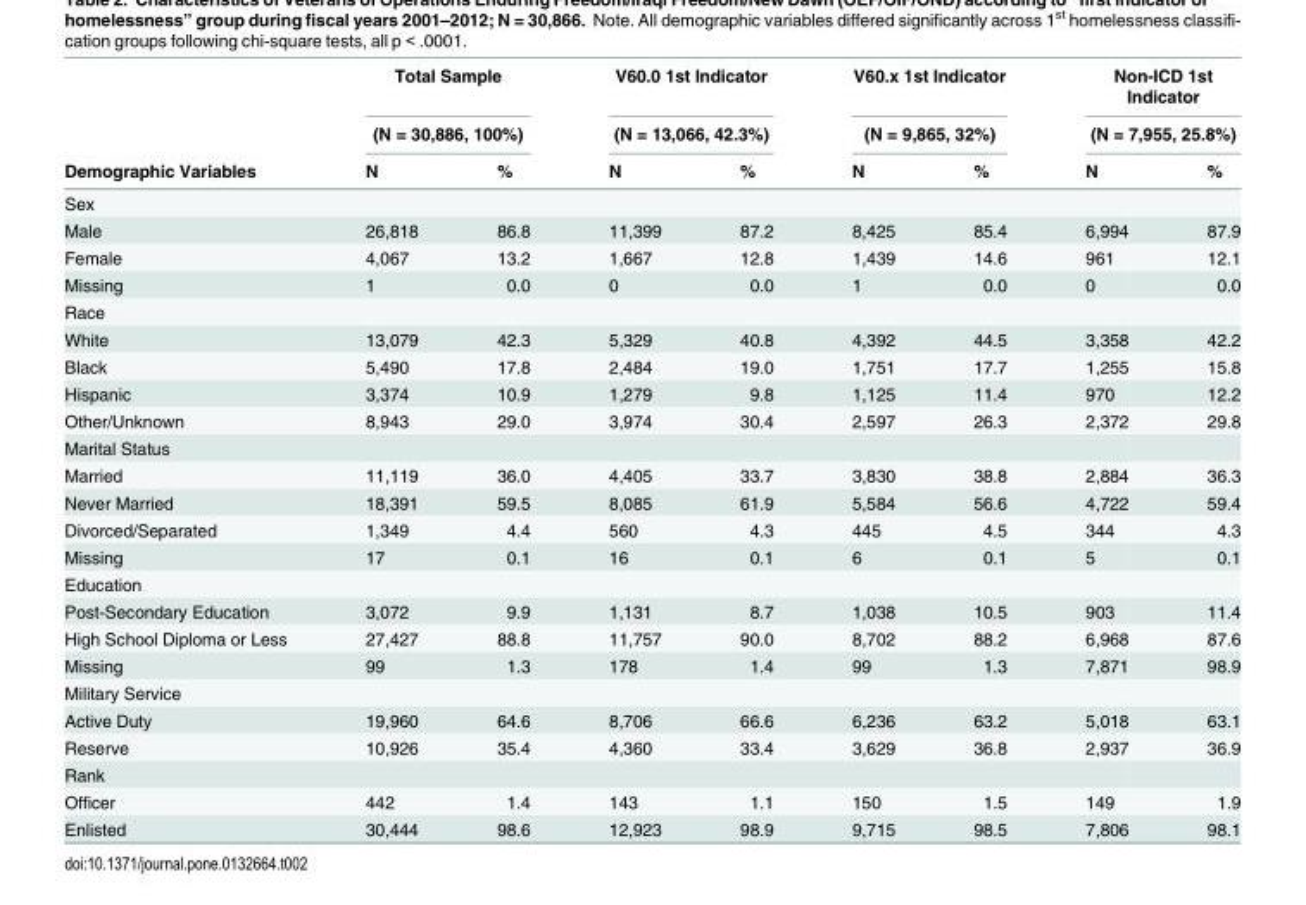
<table><thead><tr><td rowspan="3">Demographic Variables</td><td rowspan="2" colspan="2">Total Sample (N = 30,886, 100%)</td><td rowspan="2" colspan="2">V60.0 1st Indicator (N = 13,066, 42.3%)</td><td rowspan="2" colspan="2">V60.x 1st Indicator (N = 9,865, 32%)</td><td rowspan="2" colspan="2">Non-ICD 1st Indicator (N = 7,955, 25.8%)</td></tr><tr></tr><tr><td>N</td><td>%</td><td>N</td><td>%</td><td>N</td><td>%</td><td>N</td><td>%</td></tr></thead><tbody><tr><td colspan="9">Sex</td></tr><tr><td>Male</td><td>26,818</td><td>86.8</td><td>11,399</td><td>87.2</td><td>8,425</td><td>85.4</td><td>6,994</td><td>87.9</td></tr><tr><td>Female</td><td>4,067</td><td>13.2</td><td>1,667</td><td>12.8</td><td>1,439</td><td>14.6</td><td>961</td><td>12.1</td></tr><tr><td>Missing</td><td>1</td><td>0.0</td><td>0</td><td>0.0</td><td>1</td><td>0.0</td><td>0</td><td>0.0</td></tr><tr><td colspan="9">Race</td></tr><tr><td>White</td><td>13,079</td><td>42.3</td><td>5,329</td><td>40.8</td><td>4,392</td><td>44.5</td><td>3,358</td><td>42.2</td></tr><tr><td>Black</td><td>5,490</td><td>17.8</td><td>2,484</td><td>19.0</td><td>1,751</td><td>17.7</td><td>1,255</td><td>15.8</td></tr><tr><td>Hispanic</td><td>3,374</td><td>10.9</td><td>1,279</td><td>9.8</td><td>1,125</td><td>11.4</td><td>970</td><td>12.2</td></tr><tr><td>Other/Unknown</td><td>8,943</td><td>29.0</td><td>3,974</td><td>30.4</td><td>2,597</td><td>26.3</td><td>2,372</td><td>29.8</td></tr><tr><td colspan="9">Marital Status</td></tr><tr><td>Married</td><td>11,119</td><td>36.0</td><td>4,405</td><td>33.7</td><td>3,830</td><td>38.8</td><td>2,884</td><td>36.3</td></tr><tr><td>Never Married</td><td>18,391</td><td>59.5</td><td>8,085</td><td>61.9</td><td>5,584</td><td>56.6</td><td>4,722</td><td>59.4</td></tr><tr><td>Divorced/Separated</td><td>1,349</td><td>4.4</td><td>560</td><td>4.3</td><td>445</td><td>4.5</td><td>344</td><td>4.3</td></tr><tr><td>Missing</td><td>17</td><td>0.1</td><td>16</td><td>0.1</td><td>6</td><td>0.1</td><td>5</td><td>0.1</td></tr><tr><td colspan="9">Education</td></tr><tr><td>Post-Secondary Education</td><td>3,072</td><td>9.9</td><td>1,131</td><td>8.7</td><td>1,038</td><td>10.5</td><td>903</td><td>11.4</td></tr><tr><td>High School Diploma or Less</td><td>27,427</td><td>88.8</td><td>11,757</td><td>90.0</td><td>8,702</td><td>88.2</td><td>6,968</td><td>87.6</td></tr><tr><td>Missing</td><td>99</td><td>1.3</td><td>178</td><td>1.4</td><td>99</td><td>1.3</td><td>7,871</td><td>98.9</td></tr><tr><td colspan="9">Military Service</td></tr><tr><td>Active Duty</td><td>19,960</td><td>64.6</td><td>8,706</td><td>66.6</td><td>6,236</td><td>63.2</td><td>5,018</td><td>63.1</td></tr><tr><td>Reserve</td><td>10,926</td><td>35.4</td><td>4,360</td><td>33.4</td><td>3,629</td><td>36.8</td><td>2,937</td><td>36.9</td></tr><tr><td colspan="9">Rank</td></tr><tr><td>Officer</td><td>442</td><td>1.4</td><td>143</td><td>1.1</td><td>150</td><td>1.5</td><td>149</td><td>1.9</td></tr><tr><td>Enlisted</td><td>30,444</td><td>98.6</td><td>12,923</td><td>98.9</td><td>9,715</td><td>98.5</td><td>7,806</td><td>98.1</td></tr></tbody></table>